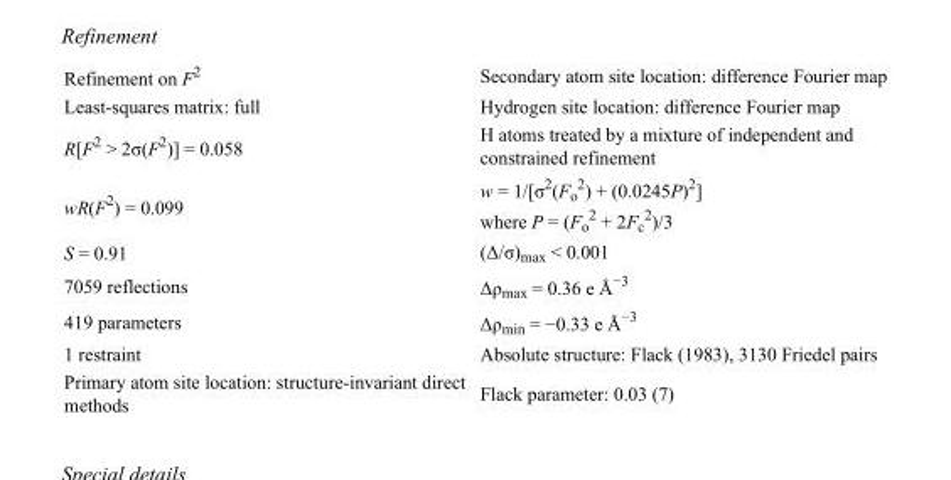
<table><tbody><tr><td>Refinement on F<sup>2</sup></td><td>Secondary atom site location: difference Fourier map</td></tr><tr><td>Least-squares matrix: full</td><td>Hydrogen site location: difference Fourier map</td></tr><tr><td>R[F<sup>2</sup> &gt; 2σ(F<sup>2</sup>)] = 0.058</td><td>H atoms treated by a mixture of independent and constrained refinement</td></tr><tr><td>wR(F<sup>2</sup>) = 0.099</td><td>w = 1/[σ<sup>2</sup>(F<sub>o</sub> <sup>2</sup>) + (0.0245P)<sup>2</sup>] where P = (F<sub>o</sub> <sup>2</sup> + 2F<sub>c</sub> <sup>2</sup>)/3</td></tr><tr><td>S = 0.91</td><td>(Δ/σ)<sub>max</sub> &lt; 0.001</td></tr><tr><td>7059 reflections</td><td>Δρ<sub>max</sub> = 0.36 e Å<sup>−3</sup></td></tr><tr><td>419 parameters</td><td>Δρ<sub>min</sub> = −0.33 e Å<sup>−3</sup></td></tr><tr><td>1 restraint</td><td>Absolute structure: Flack (1983), 3130 Friedel pairs</td></tr><tr><td>Primary atom site location: structure-invariant direct methods</td><td>Flack parameter: 0.03 (7)</td></tr></tbody></table>